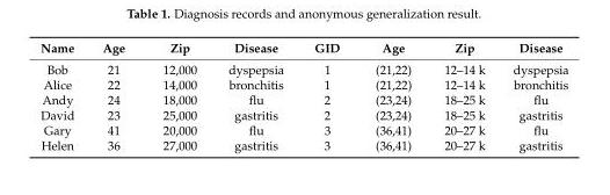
<table><thead><tr><td>Name</td><td>Age</td><td>Zip</td><td>Disease</td><td>GID</td><td>Age</td><td>Zip</td><td>Disease</td></tr></thead><tbody><tr><td>Bob</td><td>21</td><td>12,000</td><td>dyspepsia</td><td>1</td><td>(21,22)</td><td>12–14 k</td><td>dyspepsia</td></tr><tr><td>Alice</td><td>22</td><td>14,000</td><td>bronchitis</td><td>1</td><td>(21,22)</td><td>12–14 k</td><td>bronchitis</td></tr><tr><td>Andy</td><td>24</td><td>18,000</td><td>flu</td><td>2</td><td>(23,24)</td><td>18–25 k</td><td>flu</td></tr><tr><td>David</td><td>23</td><td>25,000</td><td>gastritis</td><td>2</td><td>(23,24)</td><td>18–25 k</td><td>gastritis</td></tr><tr><td>Gary</td><td>41</td><td>20,000</td><td>flu</td><td>3</td><td>(36,41)</td><td>20–27 k</td><td>flu</td></tr><tr><td>Helen</td><td>36</td><td>27,000</td><td>gastritis</td><td>3</td><td>(36,41)</td><td>20–27 k</td><td>gastritis</td></tr></tbody></table>